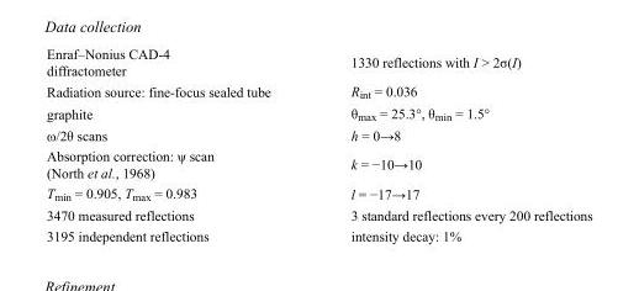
<table><tbody><tr><td>Enraf–Nonius CAD-4 diffractometer</td><td>1330 reflections with I &gt; 2σ(I)</td></tr><tr><td>Radiation source: fine-focus sealed tube</td><td>R<sub>int</sub> = 0.036</td></tr><tr><td>graphite</td><td>θ<sub>max</sub> = 25.3°, θ<sub>min</sub> = 1.5°</td></tr><tr><td>ω/2θ scans</td><td>h = 0→8</td></tr><tr><td>Absorption correction: ψ scan (North et al., 1968)</td><td>k = −10→10</td></tr><tr><td>T<sub>min</sub> = 0.905, T<sub>max</sub> = 0.983</td><td>l = −17→17</td></tr><tr><td>3470 measured reflections</td><td>3 standard reflections every 200 reflections</td></tr><tr><td>3195 independent reflections</td><td>intensity decay: 1%</td></tr></tbody></table>